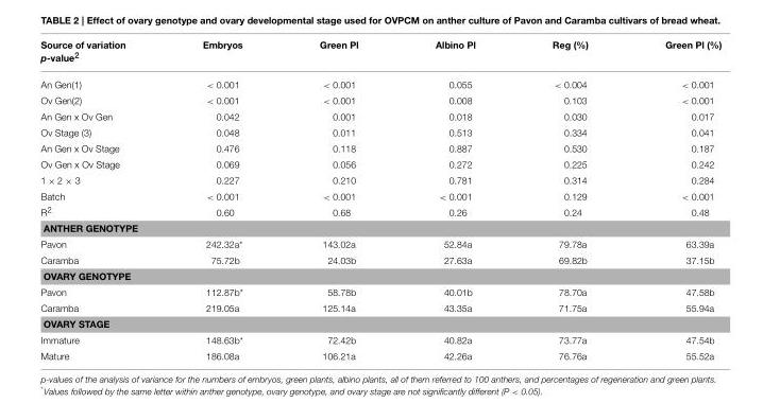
<table><thead><tr><td>Source of variation p-value<sup>2</sup></td><td>Embryos</td><td>Green Pl</td><td>Albino Pl</td><td>Reg (%)</td><td>Green Pl (%)</td></tr></thead><tbody><tr><td>An Gen(1)</td><td>&lt; 0.001</td><td>&lt; 0.001</td><td>0.055</td><td>&lt; 0.004</td><td>&lt; 0.001</td></tr><tr><td>Ov Gen(2)</td><td>&lt; 0.001</td><td>&lt; 0.001</td><td>0.008</td><td>0.103</td><td>&lt; 0.001</td></tr><tr><td>An Gen x Ov Gen</td><td>0.042</td><td>0.001</td><td>0.018</td><td>0.030</td><td>0.017</td></tr><tr><td>Ov Stage (3)</td><td>0.048</td><td>0.011</td><td>0.513</td><td>0.334</td><td>0.041</td></tr><tr><td>An Gen x Ov Stage</td><td>0.476</td><td>0.118</td><td>0.887</td><td>0.530</td><td>0.187</td></tr><tr><td>Ov Gen x Ov Stage</td><td>0.069</td><td>0.056</td><td>0.272</td><td>0.225</td><td>0.242</td></tr><tr><td>1 × 2 × 3</td><td>0.227</td><td>0.210</td><td>0.781</td><td>0.314</td><td>0.284</td></tr><tr><td>Batch</td><td>&lt; 0.001</td><td>&lt; 0.001</td><td>&lt; 0.001</td><td>0.129</td><td>&lt; 0.001</td></tr><tr><td>R<sup>2</sup></td><td>0.60</td><td>0.68</td><td>0.26</td><td>0.24</td><td>0.48</td></tr><tr><td colspan="6">ANTHER GENOTYPE</td></tr><tr><td>Pavon</td><td>242.32a*</td><td>143.02a</td><td>52.84a</td><td>79.78a</td><td>63.39a</td></tr><tr><td>Caramba</td><td>75.72b</td><td>24.03b</td><td>27.63a</td><td>69.82b</td><td>37.15b</td></tr><tr><td colspan="6">OVARY GENOTYPE</td></tr><tr><td>Pavon</td><td>112.87b*</td><td>58.78b</td><td>40.01b</td><td>78.70a</td><td>47.58b</td></tr><tr><td>Caramba</td><td>219.05a</td><td>125.14a</td><td>43.35a</td><td>71.75a</td><td>55.94a</td></tr><tr><td colspan="6">OVARY STAGE</td></tr><tr><td>Immature</td><td>148.63b*</td><td>72.42b</td><td>40.82a</td><td>73.77a</td><td>47.54b</td></tr><tr><td>Mature</td><td>186.08a</td><td>106.21a</td><td>42.26a</td><td>76.76a</td><td>55.52a</td></tr></tbody></table>